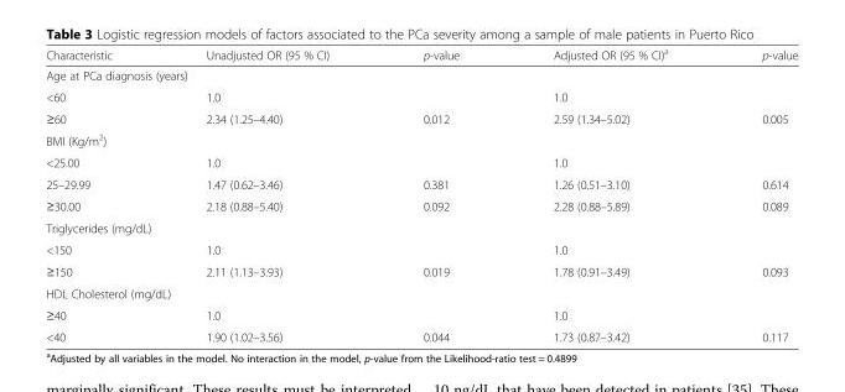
<table><thead><tr><td>Characteristic</td><td>Unadjusted OR (95 % CI)</td><td>p-value</td><td>Adjusted OR (95 % CI)<sup>a</sup></td><td>p-value</td></tr></thead><tbody><tr><td colspan="5">Age at PCa diagnosis (years)</td></tr><tr><td>&lt;60</td><td>1.0</td><td></td><td>1.0</td><td></td></tr><tr><td>≥60</td><td>2.34 (1.25–4.40)</td><td>0.012</td><td>2.59 (1.34–5.02)</td><td>0.005</td></tr><tr><td colspan="5">BMI (Kg/m<sup>2</sup>)</td></tr><tr><td>&lt;25.00</td><td>1.0</td><td></td><td>1.0</td><td></td></tr><tr><td>25–29.99</td><td>1.47 (0.62–3.46)</td><td>0.381</td><td>1.26 (0.51–3.10)</td><td>0.614</td></tr><tr><td>≥30.00</td><td>2.18 (0.88–5.40)</td><td>0.092</td><td>2.28 (0.88–5.89)</td><td>0.089</td></tr><tr><td colspan="5">Triglycerides (mg/dL)</td></tr><tr><td>&lt;150</td><td>1.0</td><td></td><td>1.0</td><td></td></tr><tr><td>≥150</td><td>2.11 (1.13–3.93)</td><td>0.019</td><td>1.78 (0.91–3.49)</td><td>0.093</td></tr><tr><td colspan="5">HDL Cholesterol (mg/dL)</td></tr><tr><td>≥40</td><td>1.0</td><td></td><td>1.0</td><td></td></tr><tr><td>&lt;40</td><td>1.90 (1.02–3.56)</td><td>0.044</td><td>1.73 (0.87–3.42)</td><td>0.117</td></tr></tbody></table>